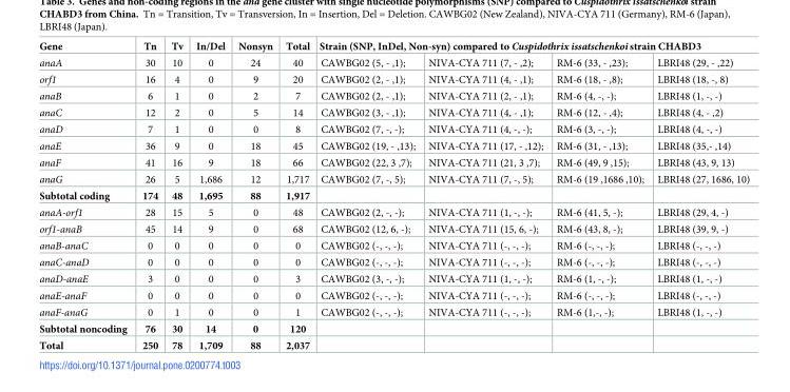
<table><thead><tr><td rowspan="2">Gene anaA</td><td rowspan="2">Tn 30</td><td rowspan="2">Tv 10</td><td rowspan="2">In/Del 0</td><td rowspan="2">Nonsyn 24</td><td rowspan="2">Total 40</td><td colspan="4">Strain (SNP, InDel, Non-syn) compared to Cuspidothrix issatschenkoi strain CHABD3</td></tr><tr><td>CAWBG02 (5, - ,1);</td><td>NIVA-CYA 711 (7, - ,2);</td><td>RM-6 (33, - ,23);</td><td>LBRI48 (29, - ,22)</td></tr></thead><tbody><tr><td>orf1</td><td>16</td><td>4</td><td>0</td><td>9</td><td>20</td><td>CAWBG02 (2, - ,1);</td><td>NIVA-CYA 711 (4, - ,1);</td><td>RM-6 (18, - ,8);</td><td>LBRI48 (18, -, 8)</td></tr><tr><td>anaB</td><td>6</td><td>1</td><td>0</td><td>2</td><td>7</td><td>CAWBG02 (2, - ,1);</td><td>NIVA-CYA 711 (2, - ,1);</td><td>RM-6 (4, -, -);</td><td>LBRI48 (1, -, -)</td></tr><tr><td>anaC</td><td>12</td><td>2</td><td>0</td><td>5</td><td>14</td><td>CAWBG02 (3, - ,1);</td><td>NIVA-CYA 711 (4, - ,1);</td><td>RM-6 (12, - ,4);</td><td>LBRI48 (4, - ,2)</td></tr><tr><td>anaD</td><td>7</td><td>1</td><td>0</td><td>0</td><td>8</td><td>CAWBG02 (7, -, -);</td><td>NIVA-CYA 711 (4, -, -);</td><td>RM-6 (3, -, -);</td><td>LBRI48 (4, -, -)</td></tr><tr><td>anaE</td><td>36</td><td>9</td><td>0</td><td>18</td><td>45</td><td>CAWBG02 (19, - ,13);</td><td>NIVA-CYA 711 (17, - ,12);</td><td>RM-6 (31, - ,13);</td><td>LBRI48 (35,- ,14)</td></tr><tr><td>anaF</td><td>41</td><td>16</td><td>9</td><td>18</td><td>66</td><td>CAWBG02 (22, 3 ,7);</td><td>NIVA-CYA 711 (21, 3 ,7);</td><td>RM-6 (49, 9 ,15);</td><td>LBRI48 (43, 9, 13)</td></tr><tr><td>anaG</td><td>26</td><td>5</td><td>1,686</td><td>12</td><td>1,717</td><td>CAWBG02 (7, -, 5);</td><td>NIVA-CYA 711 (7, -, 5);</td><td>RM-6 (19 ,1686 ,10);</td><td>LBRI48 (27, 1686, 10)</td></tr><tr><td>Subtotal coding</td><td>174</td><td>48</td><td>1,695</td><td>88</td><td>1,917</td><td></td><td></td><td></td><td></td></tr><tr><td>anaA-orf1</td><td>28</td><td>15</td><td>5</td><td>0</td><td>48</td><td>CAWBG02 (2, -, -);</td><td>NIVA-CYA 711 (1, -, -);</td><td>RM-6 (41, 5, -);</td><td>LBRI48 (29, 4, -)</td></tr><tr><td>orf1-anaB</td><td>45</td><td>14</td><td>9</td><td>0</td><td>68</td><td>CAWBG02 (12, 6, -);</td><td>NIVA-CYA 711 (15, 6, -);</td><td>RM-6 (43, 8, -);</td><td>LBRI48 (39, 9, -)</td></tr><tr><td>anaB-anaC</td><td>0</td><td>0</td><td>0</td><td>0</td><td>0</td><td>CAWBG02 (-, -, -);</td><td>NIVA-CYA 711 (-, -, -);</td><td>RM-6 (-, -, -);</td><td>LBRI48 (-, -, -)</td></tr><tr><td>anaC-anaD</td><td>0</td><td>0</td><td>0</td><td>0</td><td>0</td><td>CAWBG02 (-, -, -);</td><td>NIVA-CYA 711 (-, -, -);</td><td>RM-6 (-, -, -);</td><td>LBRI48 (-, -, -)</td></tr><tr><td>anaD-anaE</td><td>3</td><td>0</td><td>0</td><td>0</td><td>3</td><td>CAWBG02 (3, -, -);</td><td>NIVA-CYA 711 (1, -, -);</td><td>RM-6 (1, -, -);</td><td>LBRI48 (1, -, -)</td></tr><tr><td>anaE-anaF</td><td>0</td><td>0</td><td>0</td><td>0</td><td>0</td><td>CAWBG02 (-, -, -);</td><td>NIVA-CYA 711 (-, -, -);</td><td>RM-6 (-, -, -);</td><td>LBRI48 (-, -, -)</td></tr><tr><td>anaF-anaG</td><td>0</td><td>1</td><td>0</td><td>0</td><td>1</td><td>CAWBG02 (-, -, -);</td><td>NIVA-CYA 711 (-, -, -);</td><td>RM-6 (1,-, -);</td><td>LBRI48 (1, -, -)</td></tr><tr><td>Subtotal noncoding</td><td>76</td><td>30</td><td>14</td><td>0</td><td>120</td><td></td><td></td><td></td><td></td></tr><tr><td>Total</td><td>250</td><td>78</td><td>1,709</td><td>88</td><td>2,037</td><td></td><td></td><td></td><td></td></tr></tbody></table>